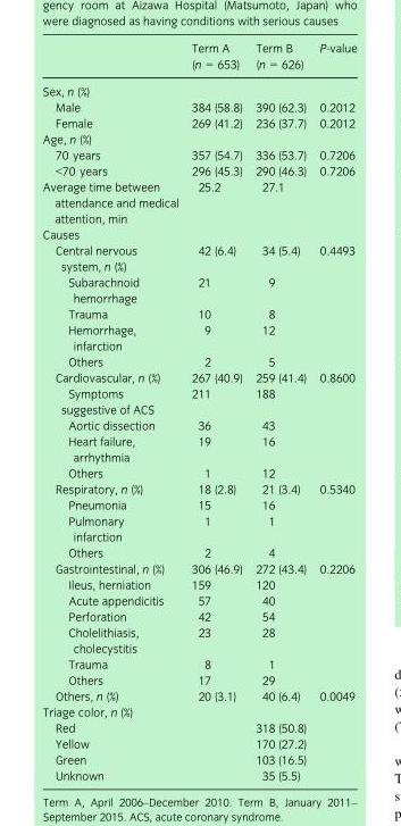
<table><thead><tr><td rowspan="2"></td><td rowspan="2">Term A (n = 653)</td><td rowspan="2">Term B (n = 626)</td><td rowspan="2">P-value</td></tr><tr></tr></thead><tbody><tr><td colspan="4">Sex, n (%)</td></tr><tr><td>Male</td><td>384 (58.8)</td><td>390 (62.3)</td><td>0.2012</td></tr><tr><td>Female</td><td>269 (41.2)</td><td>236 (37.7)</td><td>0.2012</td></tr><tr><td colspan="4">Age, n (%)</td></tr><tr><td>70 years</td><td>357 (54.7)</td><td>336 (53.7)</td><td>0.7206</td></tr><tr><td>&lt;70 years</td><td>296 (45.3)</td><td>290 (46.3)</td><td>0.7206</td></tr><tr><td>Average time between attendance and medical attention, min</td><td>25.2</td><td>27.1</td><td></td></tr><tr><td colspan="4">Causes</td></tr><tr><td>Central nervous system, n (%)</td><td>42 (6.4)</td><td>34 (5.4)</td><td rowspan="5">0.4493</td></tr><tr><td>Subarachnoid hemorrhage</td><td>21</td><td>9</td></tr><tr><td>Trauma</td><td>10</td><td>8</td></tr><tr><td>Hemorrhage, infarction</td><td>9</td><td>12</td></tr><tr><td>Others</td><td>2</td><td>5</td></tr><tr><td>Cardiovascular, n (%)</td><td>267 (40.9)</td><td>259 (41.4)</td><td rowspan="5">0.8600</td></tr><tr><td>Symptoms suggestive of ACS</td><td>211</td><td>188</td></tr><tr><td>Aortic dissection</td><td>36</td><td>43</td></tr><tr><td>Heart failure, arrhythmia</td><td>19</td><td>16</td></tr><tr><td>Others</td><td>1</td><td>12</td></tr><tr><td>Respiratory, n (%)</td><td>18 (2.8)</td><td>21 (3.4)</td><td rowspan="4">0.5340</td></tr><tr><td>Pneumonia</td><td>15</td><td>16</td></tr><tr><td>Pulmonary infarction</td><td>1</td><td>1</td></tr><tr><td>Others</td><td>2</td><td>4</td></tr><tr><td>Gastrointestinal, n (%)</td><td>306 (46.9)</td><td>272 (43.4)</td><td rowspan="7">0.2206</td></tr><tr><td>Ileus, herniation</td><td>159</td><td>120</td></tr><tr><td>Acute appendicitis</td><td>57</td><td>40</td></tr><tr><td>Perforation</td><td>42</td><td>54</td></tr><tr><td>Cholelithiasis, cholecystitis</td><td>23</td><td>28</td></tr><tr><td>Trauma</td><td>8</td><td>1</td></tr><tr><td>Others</td><td>17</td><td>29</td></tr><tr><td>Others, n (%)</td><td>20 (3.1)</td><td>40 (6.4)</td><td>0.0049</td></tr><tr><td colspan="4">Triage color, n (%)</td></tr><tr><td>Red</td><td></td><td>318 (50.8)</td><td></td></tr><tr><td>Yellow</td><td></td><td>170 (27.2)</td><td></td></tr><tr><td>Green</td><td></td><td>103 (16.5)</td><td></td></tr><tr><td>Unknown</td><td></td><td>35 (5.5)</td><td></td></tr></tbody></table>